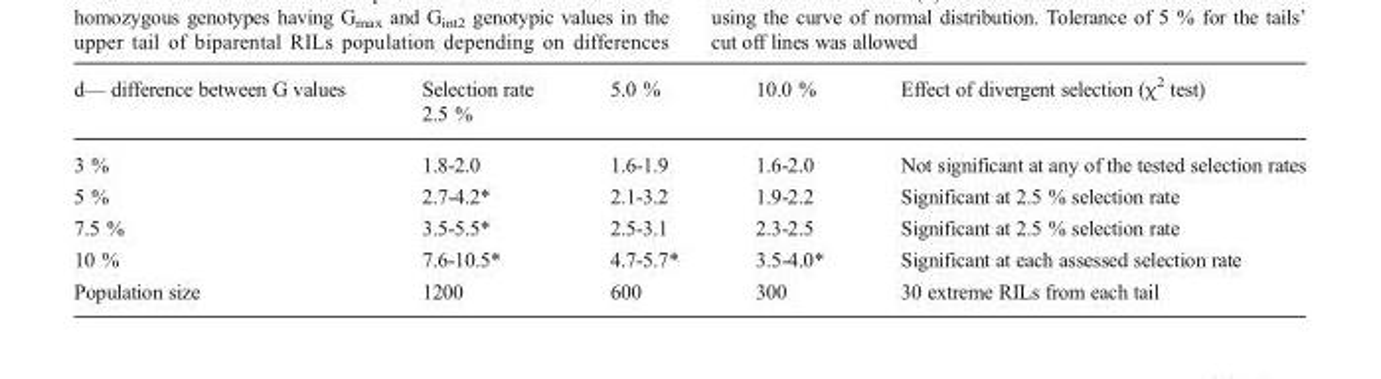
<table><thead><tr><td>d— difference between G values</td><td>Selection rate 2.5 %</td><td>5.0 %</td><td>10.0 %</td><td>Effect of divergent selection (χ<sup>2</sup> test)</td></tr></thead><tbody><tr><td>3 %</td><td>1.8-2.0</td><td>1.6-1.9</td><td>1.6-2.0</td><td>Not significant at any of the tested selection rates</td></tr><tr><td>5 %</td><td>2.7-4.2*</td><td>2.1-3.2</td><td>1.9-2.2</td><td>Significant at 2.5 % selection rate</td></tr><tr><td>7.5 %</td><td>3.5-5.5*</td><td>2.5-3.1</td><td>2.3-2.5</td><td>Significant at 2.5 % selection rate</td></tr><tr><td>10 %</td><td>7.6-10.5*</td><td>4.7-5.7*</td><td>3.5-4.0*</td><td>Significant at each assessed selection rate</td></tr><tr><td>Population size</td><td>1200</td><td>600</td><td>300</td><td>30 extreme RILs from each tail</td></tr></tbody></table>